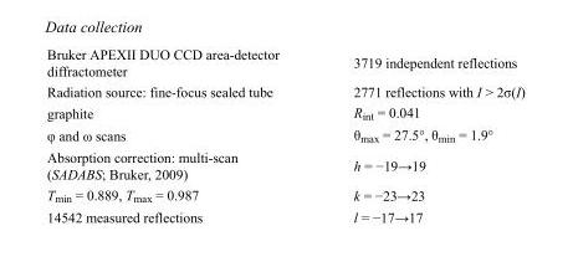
<table><tbody><tr><td>Bruker APEXII DUO CCD area-detector diffractometer</td><td>3719 independent reflections</td></tr><tr><td>Radiation source: fine-focus sealed tube</td><td>2771 reflections with I &gt; 2σ(I)</td></tr><tr><td>graphite</td><td>R<sub>int</sub> = 0.041</td></tr><tr><td>φ and ω scans</td><td>θ<sub>max</sub> = 27.5°, θ<sub>min</sub> = 1.9°</td></tr><tr><td>Absorption correction: multi-scan (SADABS; Bruker, 2009)</td><td>h = −19→19</td></tr><tr><td>T<sub>min</sub> = 0.889, T<sub>max</sub> = 0.987</td><td>k = −23→23</td></tr><tr><td>14542 measured reflections</td><td>l = −17→17</td></tr></tbody></table>